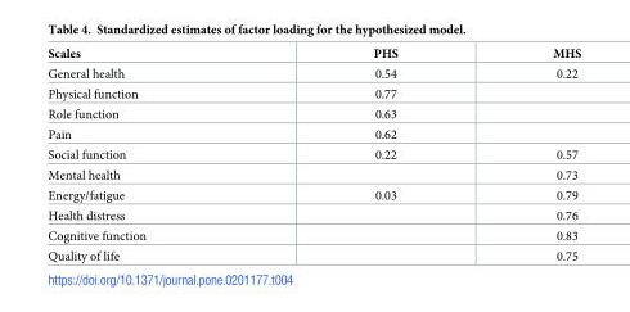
<table><thead><tr><td>Scales</td><td>PHS</td><td>MHS</td></tr></thead><tbody><tr><td>General health</td><td>0.54</td><td>0.22</td></tr><tr><td>Physical function</td><td>0.77</td><td></td></tr><tr><td>Role function</td><td>0.63</td><td></td></tr><tr><td>Pain</td><td>0.62</td><td></td></tr><tr><td>Social function</td><td>0.22</td><td>0.57</td></tr><tr><td>Mental health</td><td></td><td>0.73</td></tr><tr><td>Energy/fatigue</td><td>0.03</td><td>0.79</td></tr><tr><td>Health distress</td><td></td><td>0.76</td></tr><tr><td>Cognitive function</td><td></td><td>0.83</td></tr><tr><td>Quality of life</td><td></td><td>0.75</td></tr></tbody></table>